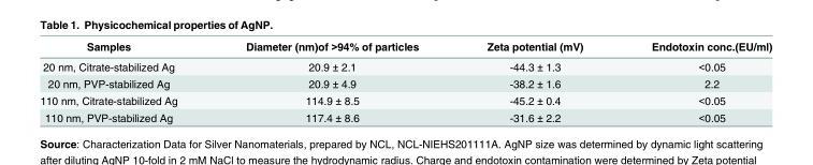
<table><thead><tr><td>Samples</td><td>Diameter (nm)of &gt;94% of particles</td><td>Zeta potential (mV)</td><td>Endotoxin conc.(EU/ml)</td></tr></thead><tbody><tr><td>20 nm, Citrate-stabilized Ag</td><td>20.9 ± 2.1</td><td>-44.3 ± 1.3</td><td>&lt;0.05</td></tr><tr><td>20 nm, PVP-stabilized Ag</td><td>20.9 ± 4.9</td><td>-38.2 ± 1.6</td><td>2.2</td></tr><tr><td>110 nm, Citrate-stabilized Ag</td><td>114.9 ± 8.5</td><td>-45.2 ± 0.4</td><td>&lt;0.05</td></tr><tr><td>110 nm, PVP-stabilized Ag</td><td>117.4 ± 8.6</td><td>-31.6 ± 2.2</td><td>&lt;0.05</td></tr></tbody></table>